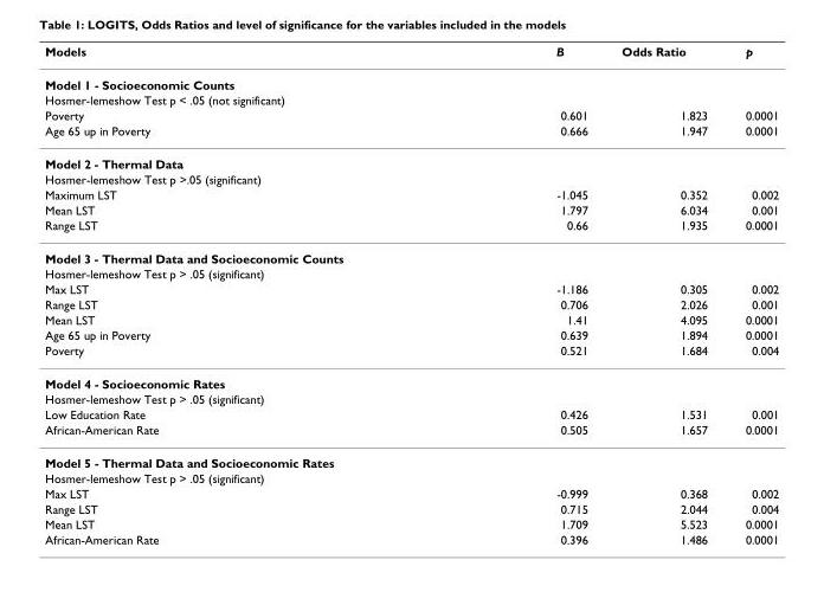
<table><thead><tr><td>Models</td><td>B</td><td>Odds Ratio</td><td>p</td></tr></thead><tbody><tr><td colspan="4">Model 1 - Socioeconomic Counts</td></tr><tr><td colspan="4">Hosmer-lemeshow Test p &lt; .05 (not significant)</td></tr><tr><td>Poverty</td><td>0.601</td><td>1.823</td><td>0.0001</td></tr><tr><td>Age 65 up in Poverty</td><td>0.666</td><td>1.947</td><td>0.0001</td></tr><tr><td colspan="4">Model 2 - Thermal Data</td></tr><tr><td colspan="4">Hosmer-lemeshow Test p &gt;.05 (significant)</td></tr><tr><td>Maximum LST</td><td>-1.045</td><td>0.352</td><td>0.002</td></tr><tr><td>Mean LST</td><td>1.797</td><td>6.034</td><td>0.001</td></tr><tr><td>Range LST</td><td>0.66</td><td>1.935</td><td>0.0001</td></tr><tr><td colspan="4">Model 3 - Thermal Data and Socioeconomic Counts</td></tr><tr><td colspan="4">Hosmer-lemeshow Test p &gt; .05 (significant)</td></tr><tr><td>Max LST</td><td>-1.186</td><td>0.305</td><td>0.002</td></tr><tr><td>Range LST</td><td>0.706</td><td>2.026</td><td>0.001</td></tr><tr><td>Mean LST</td><td>1.41</td><td>4.095</td><td>0.0001</td></tr><tr><td>Age 65 up in Poverty</td><td>0.639</td><td>1.894</td><td>0.0001</td></tr><tr><td>Poverty</td><td>0.521</td><td>1.684</td><td>0.004</td></tr><tr><td colspan="4">Model 4 - Socioeconomic Rates</td></tr><tr><td colspan="4">Hosmer-lemeshow Test p &gt; .05 (significant)</td></tr><tr><td>Low Education Rate</td><td>0.426</td><td>1.531</td><td>0.001</td></tr><tr><td>African-American Rate</td><td>0.505</td><td>1.657</td><td>0.0001</td></tr><tr><td colspan="4">Model 5 - Thermal Data and Socioeconomic Rates</td></tr><tr><td colspan="4">Hosmer-lemeshow Test p &gt; .05 (significant)</td></tr><tr><td>Max LST</td><td>-0.999</td><td>0.368</td><td>0.002</td></tr><tr><td>Range LST</td><td>0.715</td><td>2.044</td><td>0.004</td></tr><tr><td>Mean LST</td><td>1.709</td><td>5.523</td><td>0.0001</td></tr><tr><td>African-American Rate</td><td>0.396</td><td>1.486</td><td>0.0001</td></tr></tbody></table>